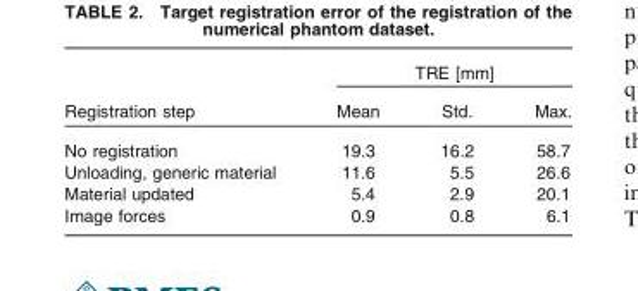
<table><thead><tr><td rowspan="2">Registration step</td><td colspan="3">TRE [mm]</td></tr><tr><td>Mean</td><td>Std.</td><td>Max.</td></tr></thead><tbody><tr><td>No registration</td><td>19.3</td><td>16.2</td><td>58.7</td></tr><tr><td>Unloading, generic material</td><td>11.6</td><td>5.5</td><td>26.6</td></tr><tr><td>Material updated</td><td>5.4</td><td>2.9</td><td>20.1</td></tr><tr><td>Image forces</td><td>0.9</td><td>0.8</td><td>6.1</td></tr></tbody></table>